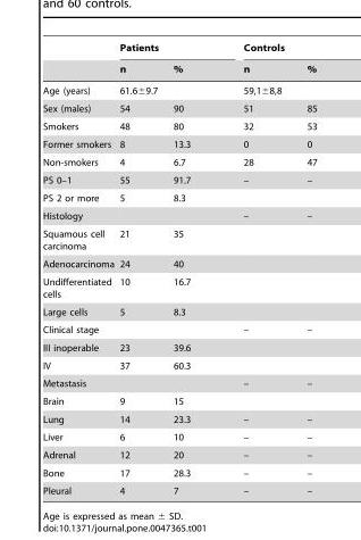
<table><thead><tr><td rowspan="2"></td><td colspan="2">Patients</td><td colspan="2">Controls</td></tr><tr><td>n</td><td>%</td><td>n</td><td>%</td></tr></thead><tbody><tr><td>Age (years)</td><td>61.6±9.7</td><td></td><td>59,1±8,8</td><td></td></tr><tr><td>Sex (males)</td><td>54</td><td>90</td><td>51</td><td>85</td></tr><tr><td>Smokers</td><td>48</td><td>80</td><td>32</td><td>53</td></tr><tr><td>Former smokers</td><td>8</td><td>13.3</td><td>0</td><td>0</td></tr><tr><td>Non-smokers</td><td>4</td><td>6.7</td><td>28</td><td>47</td></tr><tr><td>PS 0–1</td><td>55</td><td>91.7</td><td>–</td><td>–</td></tr><tr><td>PS 2 or more</td><td>5</td><td>8.3</td><td></td><td></td></tr><tr><td>Histology</td><td></td><td></td><td>–</td><td>–</td></tr><tr><td>Squamous cell carcinoma</td><td>21</td><td>35</td><td></td><td></td></tr><tr><td>Adenocarcinoma</td><td>24</td><td>40</td><td></td><td></td></tr><tr><td>Undifferentiated cells</td><td>10</td><td>16.7</td><td></td><td></td></tr><tr><td>Large cells</td><td>5</td><td>8.3</td><td></td><td></td></tr><tr><td>Clinical stage</td><td></td><td></td><td>–</td><td>–</td></tr><tr><td>III inoperable</td><td>23</td><td>39.6</td><td></td><td></td></tr><tr><td>IV</td><td>37</td><td>60.3</td><td></td><td></td></tr><tr><td>Metastasis</td><td></td><td></td><td>–</td><td>–</td></tr><tr><td>Brain</td><td>9</td><td>15</td><td></td><td></td></tr><tr><td>Lung</td><td>14</td><td>23.3</td><td>–</td><td>–</td></tr><tr><td>Liver</td><td>6</td><td>10</td><td>–</td><td>–</td></tr><tr><td>Adrenal</td><td>12</td><td>20</td><td>–</td><td>–</td></tr><tr><td>Bone</td><td>17</td><td>28.3</td><td>–</td><td>–</td></tr><tr><td>Pleural</td><td>4</td><td>7</td><td>–</td><td>–</td></tr></tbody></table>